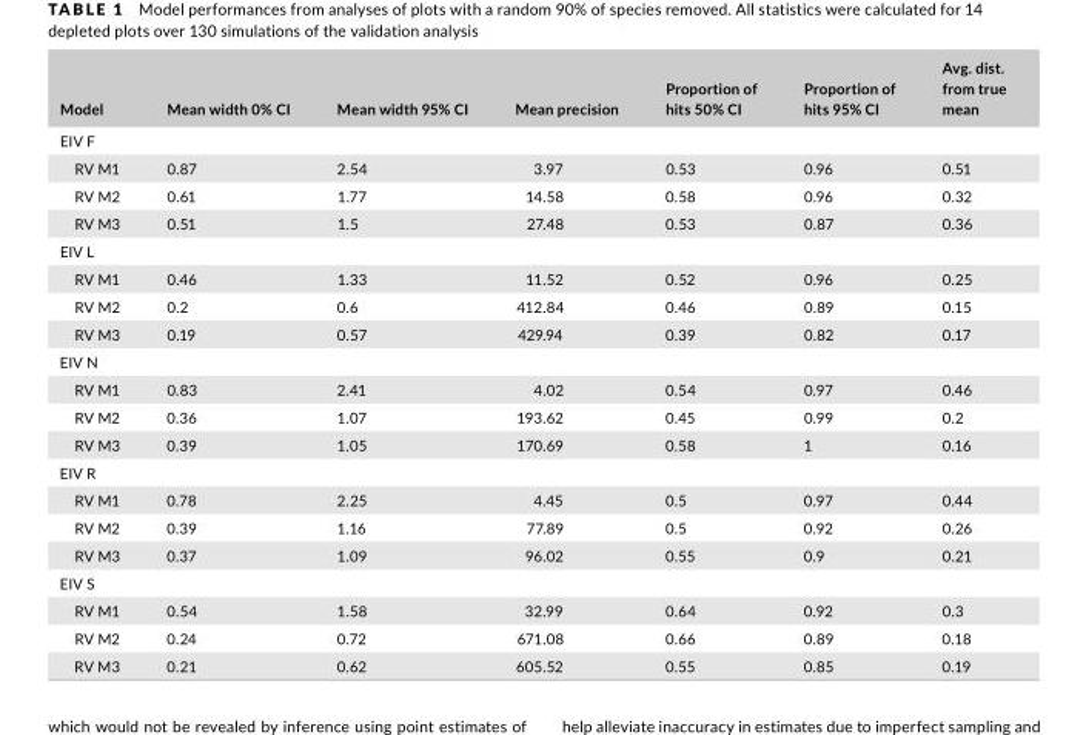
<table><thead><tr><td>Model</td><td>Mean width 0% CI</td><td>Mean width 95% CI</td><td>Mean precision</td><td>Proportion of hits 50% CI</td><td>Proportion of hits 95% CI</td><td>Avg. dist. from true mean</td></tr></thead><tbody><tr><td colspan="7">EIV F</td></tr><tr><td>RV M1</td><td>0.87</td><td>2.54</td><td>3.97</td><td>0.53</td><td>0.96</td><td>0.51</td></tr><tr><td>RV M2</td><td>0.61</td><td>1.77</td><td>14.58</td><td>0.58</td><td>0.96</td><td>0.32</td></tr><tr><td>RV M3</td><td>0.51</td><td>1.5</td><td>27.48</td><td>0.53</td><td>0.87</td><td>0.36</td></tr><tr><td colspan="7">EIV L</td></tr><tr><td>RV M1</td><td>0.46</td><td>1.33</td><td>11.52</td><td>0.52</td><td>0.96</td><td>0.25</td></tr><tr><td>RV M2</td><td>0.2</td><td>0.6</td><td>412.84</td><td>0.46</td><td>0.89</td><td>0.15</td></tr><tr><td>RV M3</td><td>0.19</td><td>0.57</td><td>429.94</td><td>0.39</td><td>0.82</td><td>0.17</td></tr><tr><td colspan="7">EIV N</td></tr><tr><td>RV M1</td><td>0.83</td><td>2.41</td><td>4.02</td><td>0.54</td><td>0.97</td><td>0.46</td></tr><tr><td>RV M2</td><td>0.36</td><td>1.07</td><td>193.62</td><td>0.45</td><td>0.99</td><td>0.2</td></tr><tr><td>RV M3</td><td>0.39</td><td>1.05</td><td>170.69</td><td>0.58</td><td>1</td><td>0.16</td></tr><tr><td colspan="7">EIV R</td></tr><tr><td>RV M1</td><td>0.78</td><td>2.25</td><td>4.45</td><td>0.5</td><td>0.97</td><td>0.44</td></tr><tr><td>RV M2</td><td>0.39</td><td>1.16</td><td>77.89</td><td>0.5</td><td>0.92</td><td>0.26</td></tr><tr><td>RV M3</td><td>0.37</td><td>1.09</td><td>96.02</td><td>0.55</td><td>0.9</td><td>0.21</td></tr><tr><td colspan="7">EIV S</td></tr><tr><td>RV M1</td><td>0.54</td><td>1.58</td><td>32.99</td><td>0.64</td><td>0.92</td><td>0.3</td></tr><tr><td>RV M2</td><td>0.24</td><td>0.72</td><td>671.08</td><td>0.66</td><td>0.89</td><td>0.18</td></tr><tr><td>RV M3</td><td>0.21</td><td>0.62</td><td>605.52</td><td>0.55</td><td>0.85</td><td>0.19</td></tr></tbody></table>